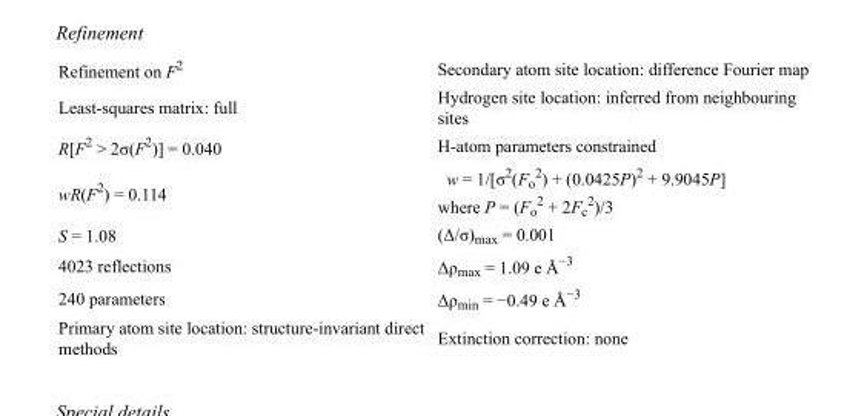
<table><tbody><tr><td>Refinement on F<sup>2</sup></td><td>Secondary atom site location: difference Fourier map</td></tr><tr><td>Least-squares matrix: full</td><td>Hydrogen site location: inferred from neighbouring sites</td></tr><tr><td>R[F<sup>2</sup> &gt; 2σ(F<sup>2</sup>)] = 0.040</td><td>H-atom parameters constrained</td></tr><tr><td>wR(F<sup>2</sup>) = 0.114</td><td>w = 1/[σ<sup>2</sup>(F<sub>o</sub> <sup>2</sup>) + (0.0425P)<sup>2</sup> + 9.9045P] where P = (F<sub>o</sub> <sup>2</sup> + 2F<sub>c</sub> <sup>2</sup>)/3</td></tr><tr><td>S = 1.08</td><td>(Δ/σ)<sub>max</sub> = 0.001</td></tr><tr><td>4023 reflections</td><td>Δρ<sub>max</sub> = 1.09 e Å<sup>−3</sup></td></tr><tr><td>240 parameters</td><td>Δρ<sub>min</sub> = −0.49 e Å<sup>−3</sup></td></tr><tr><td>Primary atom site location: structure-invariant direct methods</td><td>Extinction correction: none</td></tr></tbody></table>